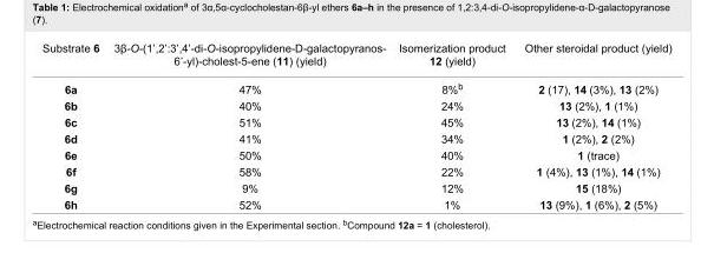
<table><tbody><tr><td>Substrate 6</td><td>3β-O-(1’,2’:3’,4’-di-O-isopropylidene-D-galactopyranos- 6’-yl)-cholest-5-ene (11) (yield)</td><td>Isomerization product 12 (yield)</td><td>Other steroidal product (yield)</td></tr><tr><td>6a</td><td>47%</td><td>8%<sup>b</sup></td><td>2 (17), 14 (3%), 13 (2%)</td></tr><tr><td>6b</td><td>40%</td><td>24%</td><td>13 (2%), 1 (1%)</td></tr><tr><td>6c</td><td>51%</td><td>45%</td><td>13 (2%), 14 (1%)</td></tr><tr><td>6d</td><td>41%</td><td>34%</td><td>1 (2%), 2 (2%)</td></tr><tr><td>6e</td><td>50%</td><td>40%</td><td>1 (trace)</td></tr><tr><td>6f</td><td>58%</td><td>22%</td><td>1 (4%), 13 (1%), 14 (1%)</td></tr><tr><td>6g</td><td>9%</td><td>12%</td><td>15 (18%)</td></tr><tr><td>6h</td><td>52%</td><td>1%</td><td>13 (9%), 1 (6%), 2 (5%)</td></tr></tbody></table>